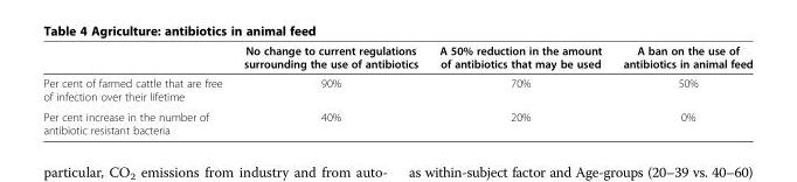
<table><thead><tr><td></td><td>No change to current regulations surrounding the use of antibiotics</td><td>A 50% reduction in the amount of antibiotics that may be used</td><td>A ban on the use of antibiotics in animal feed</td></tr></thead><tbody><tr><td>Per cent of farmed cattle that are free of infection over their lifetime</td><td>90%</td><td>70%</td><td>50%</td></tr><tr><td>Per cent increase in the number of antibiotic resistant bacteria</td><td>40%</td><td>20%</td><td>0%</td></tr></tbody></table>